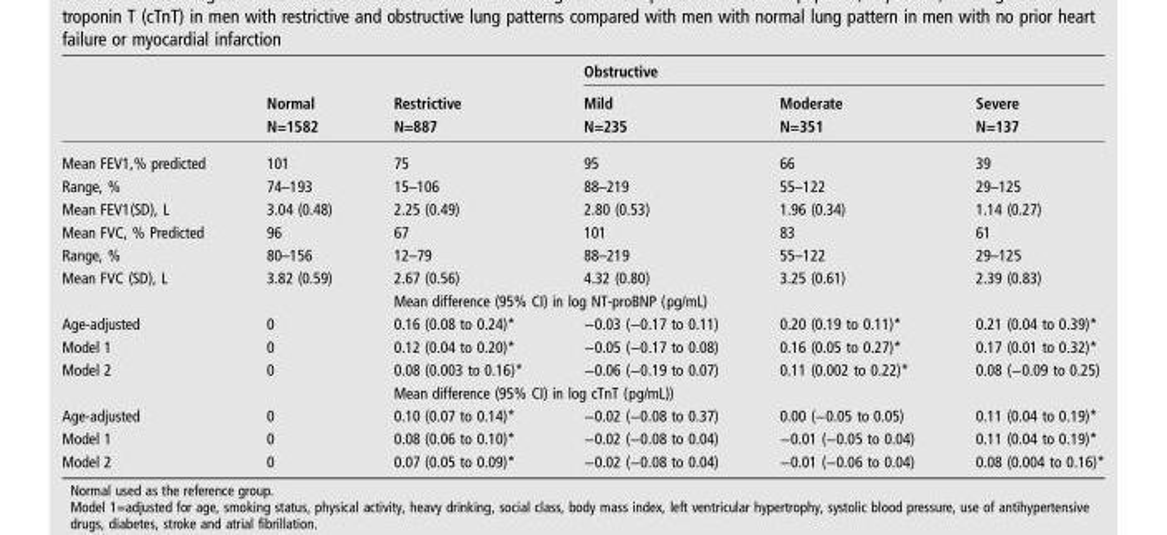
<table><thead><tr><td rowspan="3"></td><td rowspan="3">Normal N=1582</td><td rowspan="3">Restrictive N=887</td><td colspan="3">Obstructive</td></tr><tr><td rowspan="2">Mild N=235</td><td rowspan="2">Moderate N=351</td><td rowspan="2">Severe N=137</td></tr><tr></tr></thead><tbody><tr><td>Mean FEV1,% predicted</td><td>101</td><td>75</td><td>95</td><td>66</td><td>39</td></tr><tr><td>Range, %</td><td>74–193</td><td>15–106</td><td>88–219</td><td>55–122</td><td>29–125</td></tr><tr><td>Mean FEV1(SD), L</td><td>3.04 (0.48)</td><td>2.25 (0.49)</td><td>2.80 (0.53)</td><td>1.96 (0.34)</td><td>1.14 (0.27)</td></tr><tr><td>Mean FVC, % Predicted</td><td>96</td><td>67</td><td>101</td><td>83</td><td>61</td></tr><tr><td>Range, %</td><td>80–156</td><td>12–79</td><td>88–219</td><td>55–122</td><td>29–125</td></tr><tr><td rowspan="2">Mean FVC (SD), L</td><td>3.82 (0.59)</td><td>2.67 (0.56)</td><td>4.32 (0.80)</td><td>3.25 (0.61)</td><td>2.39 (0.83)</td></tr><tr><td></td><td colspan="4">Mean difference (95% CI) in log NT-proBNP (pg/mL)</td></tr><tr><td>Age-adjusted</td><td>0</td><td>0.16 (0.08 to 0.24)*</td><td>−0.03 (−0.17 to 0.11)</td><td>0.20 (0.19 to 0.11)*</td><td>0.21 (0.04 to 0.39)*</td></tr><tr><td>Model 1</td><td>0</td><td>0.12 (0.04 to 0.20)*</td><td>−0.05 (−0.17 to 0.08)</td><td>0.16 (0.05 to 0.27)*</td><td>0.17 (0.01 to 0.32)*</td></tr><tr><td rowspan="2">Model 2</td><td>0</td><td>0.08 (0.003 to 0.16)*</td><td>−0.06 (−0.19 to 0.07)</td><td>0.11 (0.002 to 0.22)*</td><td>0.08 (−0.09 to 0.25)</td></tr><tr><td></td><td colspan="4">Mean difference (95% CI) in log cTnT (pg/mL))</td></tr><tr><td>Age-adjusted</td><td>0</td><td>0.10 (0.07 to 0.14)*</td><td>−0.02 (−0.08 to 0.37)</td><td>0.00 (−0.05 to 0.05)</td><td>0.11 (0.04 to 0.19)*</td></tr><tr><td>Model 1</td><td>0</td><td>0.08 (0.06 to 0.10)*</td><td>−0.02 (−0.08 to 0.04)</td><td>−0.01 (−0.05 to 0.04)</td><td>0.11 (0.04 to 0.19)*</td></tr><tr><td>Model 2</td><td>0</td><td>0.07 (0.05 to 0.09)*</td><td>−0.02 (−0.08 to 0.04)</td><td>−0.01 (−0.06 to 0.04)</td><td>0.08 (0.004 to 0.16)*</td></tr></tbody></table>